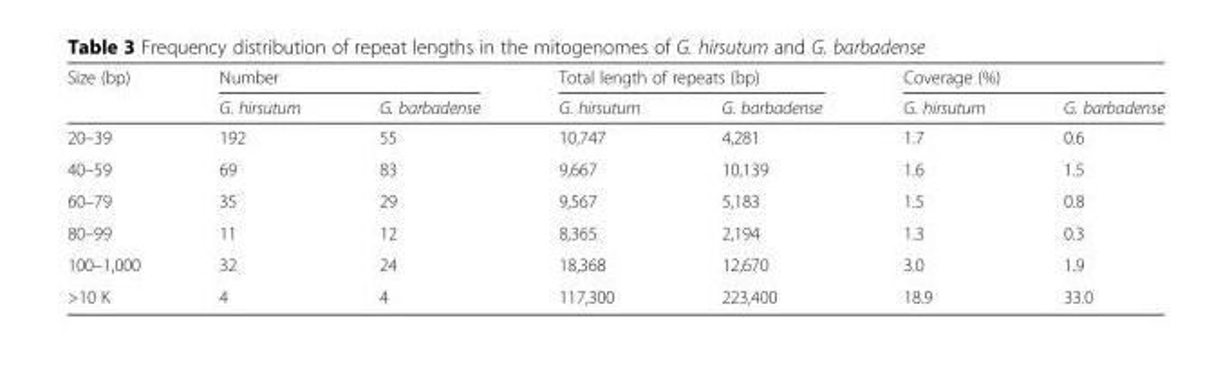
<table><thead><tr><td rowspan="2">Size (bp)</td><td colspan="2">Number</td><td colspan="2">Total length of repeats (bp)</td><td colspan="2">Coverage (%)</td></tr><tr><td>G. hirsutum</td><td>G. barbadense</td><td>G. hirsutum</td><td>G. barbadense</td><td>G. hirsutum</td><td>G. barbadense</td></tr></thead><tbody><tr><td>20–39</td><td>192</td><td>55</td><td>10,747</td><td>4,281</td><td>1.7</td><td>0.6</td></tr><tr><td>40–59</td><td>69</td><td>83</td><td>9,667</td><td>10,139</td><td>1.6</td><td>1.5</td></tr><tr><td>60–79</td><td>35</td><td>29</td><td>9,567</td><td>5,183</td><td>1.5</td><td>0.8</td></tr><tr><td>80–99</td><td>11</td><td>12</td><td>8,365</td><td>2,194</td><td>1.3</td><td>0.3</td></tr><tr><td>100–1,000</td><td>32</td><td>24</td><td>18,368</td><td>12,670</td><td>3.0</td><td>1.9</td></tr><tr><td>&gt;10 K</td><td>4</td><td>4</td><td>117,300</td><td>223,400</td><td>18.9</td><td>33.0</td></tr></tbody></table>